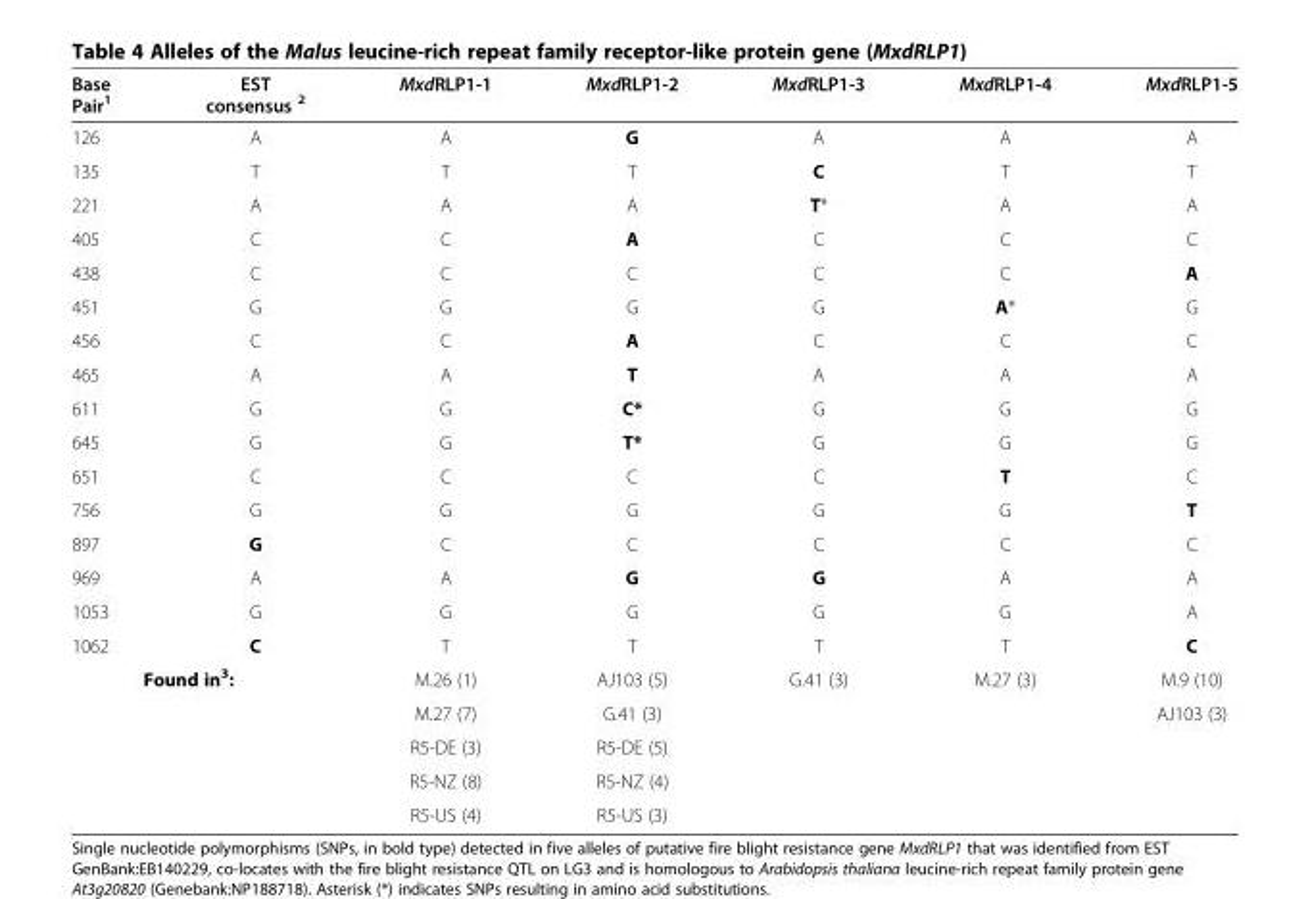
<table><thead><tr><td>Base Pair<sup>1</sup></td><td>EST consensus <sup>2</sup></td><td>MxdRLP1-1</td><td>MxdRLP1-2</td><td>MxdRLP1-3</td><td>MxdRLP1-4</td><td>MxdRLP1-5</td></tr></thead><tbody><tr><td>126</td><td>A</td><td>A</td><td>G</td><td>A</td><td>A</td><td>A</td></tr><tr><td>135</td><td>T</td><td>T</td><td>T</td><td>C</td><td>T</td><td>T</td></tr><tr><td>221</td><td>A</td><td>A</td><td>A</td><td>T*</td><td>A</td><td>A</td></tr><tr><td>405</td><td>C</td><td>C</td><td>A</td><td>C</td><td>C</td><td>C</td></tr><tr><td>438</td><td>C</td><td>C</td><td>C</td><td>C</td><td>C</td><td>A</td></tr><tr><td>451</td><td>G</td><td>G</td><td>G</td><td>G</td><td>A*</td><td>G</td></tr><tr><td>456</td><td>C</td><td>C</td><td>A</td><td>C</td><td>C</td><td>C</td></tr><tr><td>465</td><td>A</td><td>A</td><td>T</td><td>A</td><td>A</td><td>A</td></tr><tr><td>611</td><td>G</td><td>G</td><td>C*</td><td>G</td><td>G</td><td>G</td></tr><tr><td>645</td><td>G</td><td>G</td><td>T*</td><td>G</td><td>G</td><td>G</td></tr><tr><td>651</td><td>C</td><td>C</td><td>C</td><td>C</td><td>T</td><td>C</td></tr><tr><td>756</td><td>G</td><td>G</td><td>G</td><td>G</td><td>G</td><td>T</td></tr><tr><td>897</td><td>G</td><td>C</td><td>C</td><td>C</td><td>C</td><td>C</td></tr><tr><td>969</td><td>A</td><td>A</td><td>G</td><td>G</td><td>A</td><td>A</td></tr><tr><td>1053</td><td>G</td><td>G</td><td>G</td><td>G</td><td>G</td><td>A</td></tr><tr><td>1062</td><td>C</td><td>T</td><td>T</td><td>T</td><td>T</td><td>C</td></tr><tr><td colspan="2">Found in<sup>3</sup>:</td><td>M.26 (1)</td><td>AJ103 (5)</td><td>G.41 (3)</td><td>M.27 (3)</td><td>M.9 (10)</td></tr><tr><td></td><td></td><td>M.27 (7)</td><td>G.41 (3)</td><td></td><td></td><td>AJ103 (3)</td></tr><tr><td></td><td></td><td>R5-DE (3)</td><td>R5-DE (5)</td><td></td><td></td><td></td></tr><tr><td></td><td></td><td>R5-NZ (8)</td><td>R5-NZ (4)</td><td></td><td></td><td></td></tr><tr><td></td><td></td><td>R5-US (4)</td><td>R5-US (3)</td><td></td><td></td><td></td></tr></tbody></table>